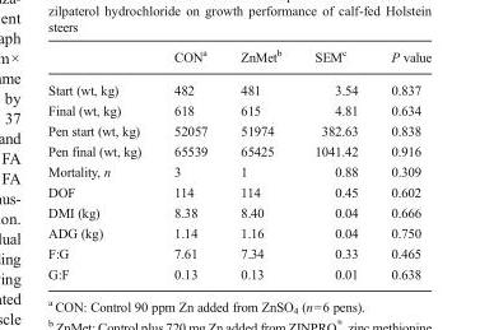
<table><thead><tr><td></td><td>CON<sup>a</sup></td><td>ZnMet<sup>b</sup></td><td>SEM<sup>c</sup></td><td>P value</td></tr></thead><tbody><tr><td>Start (wt, kg)</td><td>482</td><td>481</td><td>3.54</td><td>0.837</td></tr><tr><td>Final (wt, kg)</td><td>618</td><td>615</td><td>4.81</td><td>0.634</td></tr><tr><td>Pen start (wt, kg)</td><td>52057</td><td>51974</td><td>382.63</td><td>0.838</td></tr><tr><td>Pen final (wt, kg)</td><td>65539</td><td>65425</td><td>1041.42</td><td>0.916</td></tr><tr><td>Mortality, n</td><td>3</td><td>1</td><td>0.88</td><td>0.309</td></tr><tr><td>DOF</td><td>114</td><td>114</td><td>0.45</td><td>0.602</td></tr><tr><td>DMI (kg)</td><td>8.38</td><td>8.40</td><td>0.04</td><td>0.666</td></tr><tr><td>ADG (kg)</td><td>1.14</td><td>1.16</td><td>0.04</td><td>0.750</td></tr><tr><td>F:G</td><td>7.61</td><td>7.34</td><td>0.33</td><td>0.465</td></tr><tr><td>G:F</td><td>0.13</td><td>0.13</td><td>0.01</td><td>0.638</td></tr></tbody></table>